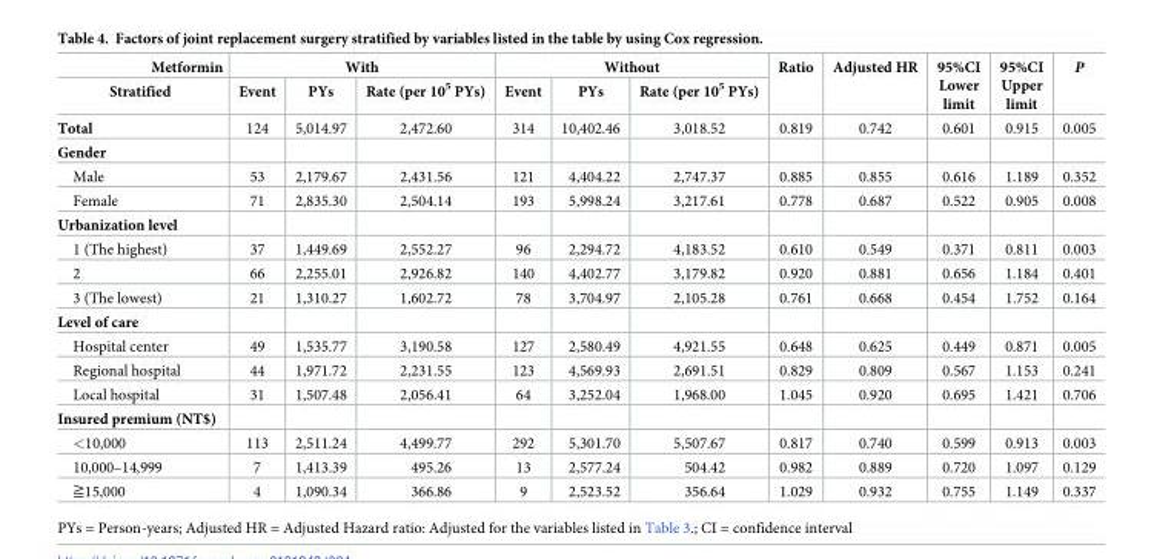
<table><thead><tr><td rowspan="2">Metformin Stratified</td><td colspan="3">With</td><td colspan="3">Without</td><td rowspan="2">Ratio</td><td rowspan="2">Adjusted HR</td><td rowspan="2">95%CI Lower limit</td><td rowspan="2">95%CI Upper limit</td><td rowspan="2">P</td></tr><tr><td>Event</td><td>PYs</td><td>Rate (per 10<sup>5</sup> PYs)</td><td>Event</td><td>PYs</td><td>Rate (per 10<sup>5</sup> PYs)</td></tr></thead><tbody><tr><td>Total</td><td>124</td><td>5,014.97</td><td>2,472.60</td><td>314</td><td>10,402.46</td><td>3,018.52</td><td>0.819</td><td>0.742</td><td>0.601</td><td>0.915</td><td>0.005</td></tr><tr><td colspan="12">Gender</td></tr><tr><td>Male</td><td>53</td><td>2,179.67</td><td>2,431.56</td><td>121</td><td>4,404.22</td><td>2,747.37</td><td>0.885</td><td>0.855</td><td>0.616</td><td>1.189</td><td>0.352</td></tr><tr><td>Female</td><td>71</td><td>2,835.30</td><td>2,504.14</td><td>193</td><td>5,998.24</td><td>3,217.61</td><td>0.778</td><td>0.687</td><td>0.522</td><td>0.905</td><td>0.008</td></tr><tr><td colspan="12">Urbanization level</td></tr><tr><td>1 (The highest)</td><td>37</td><td>1,449.69</td><td>2,552.27</td><td>96</td><td>2,294.72</td><td>4,183.52</td><td>0.610</td><td>0.549</td><td>0.371</td><td>0.811</td><td>0.003</td></tr><tr><td>2</td><td>66</td><td>2,255.01</td><td>2,926.82</td><td>140</td><td>4,402.77</td><td>3,179.82</td><td>0.920</td><td>0.881</td><td>0.656</td><td>1.184</td><td>0.401</td></tr><tr><td>3 (The lowest)</td><td>21</td><td>1,310.27</td><td>1,602.72</td><td>78</td><td>3,704.97</td><td>2,105.28</td><td>0.761</td><td>0.668</td><td>0.454</td><td>1.752</td><td>0.164</td></tr><tr><td colspan="12">Level of care</td></tr><tr><td>Hospital center</td><td>49</td><td>1,535.77</td><td>3,190.58</td><td>127</td><td>2,580.49</td><td>4,921.55</td><td>0.648</td><td>0.625</td><td>0.449</td><td>0.871</td><td>0.005</td></tr><tr><td>Regional hospital</td><td>44</td><td>1,971.72</td><td>2,231.55</td><td>123</td><td>4,569.93</td><td>2,691.51</td><td>0.829</td><td>0.809</td><td>0.567</td><td>1.153</td><td>0.241</td></tr><tr><td>Local hospital</td><td>31</td><td>1,507.48</td><td>2,056.41</td><td>64</td><td>3,252.04</td><td>1,968.00</td><td>1.045</td><td>0.920</td><td>0.695</td><td>1.421</td><td>0.706</td></tr><tr><td colspan="12">Insured premium (NT$)</td></tr><tr><td>&lt;10,000</td><td>113</td><td>2,511.24</td><td>4,499.77</td><td>292</td><td>5,301.70</td><td>5,507.67</td><td>0.817</td><td>0.740</td><td>0.599</td><td>0.913</td><td>0.003</td></tr><tr><td>10,000–14,999</td><td>7</td><td>1,413.39</td><td>495.26</td><td>13</td><td>2,577.24</td><td>504.42</td><td>0.982</td><td>0.889</td><td>0.720</td><td>1.097</td><td>0.129</td></tr><tr><td>≧15,000</td><td>4</td><td>1,090.34</td><td>366.86</td><td>9</td><td>2,523.52</td><td>356.64</td><td>1.029</td><td>0.932</td><td>0.755</td><td>1.149</td><td>0.337</td></tr></tbody></table>